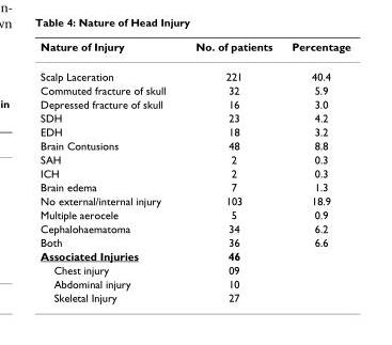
<table><thead><tr><td>Nature of Injury</td><td>No. of patients</td><td>Percentage</td></tr></thead><tbody><tr><td>Scalp Laceration</td><td>221</td><td>40.4</td></tr><tr><td>Commuted fracture of skull</td><td>32</td><td>5.9</td></tr><tr><td>Depressed fracture of skull</td><td>16</td><td>3.0</td></tr><tr><td>SDH</td><td>23</td><td>4.2</td></tr><tr><td>EDH</td><td>18</td><td>3.2</td></tr><tr><td>Brain Contusions</td><td>48</td><td>8.8</td></tr><tr><td>SAH</td><td>2</td><td>0.3</td></tr><tr><td>ICH</td><td>2</td><td>0.3</td></tr><tr><td>Brain edema</td><td>7</td><td>1.3</td></tr><tr><td>No external/internal injury</td><td>103</td><td>18.9</td></tr><tr><td>Multiple aerocele</td><td>5</td><td>0.9</td></tr><tr><td>Cephalohaematoma</td><td>34</td><td>6.2</td></tr><tr><td>Both</td><td>36</td><td>6.6</td></tr><tr><td>Associated Injuries</td><td>46</td><td></td></tr><tr><td>Chest injury</td><td>09</td><td></td></tr><tr><td>Abdominal injury</td><td>10</td><td></td></tr><tr><td>Skeletal Injury</td><td>27</td><td></td></tr></tbody></table>